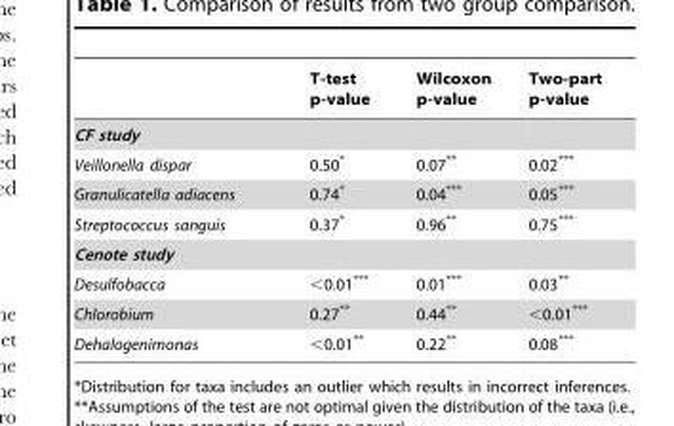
<table><thead><tr><td></td><td>T-test p-value</td><td>Wilcoxon p-value</td><td>Two-part p-value</td></tr></thead><tbody><tr><td colspan="4">CF study</td></tr><tr><td>Veillonella dispar</td><td>0.50*</td><td>0.07**</td><td>0.02***</td></tr><tr><td>Granulicatella adiacens</td><td>0.74*</td><td>0.04***</td><td>0.05***</td></tr><tr><td>Streptococcus sanguis</td><td>0.37*</td><td>0.96**</td><td>0.75***</td></tr><tr><td colspan="4">Cenote study</td></tr><tr><td>Desulfobacca</td><td>&lt;0.01***</td><td>0.01***</td><td>0.03**</td></tr><tr><td>Chlorobium</td><td>0.27**</td><td>0.44**</td><td>&lt;0.01***</td></tr><tr><td>Dehalogenimonas</td><td>&lt;0.01**</td><td>0.22**</td><td>0.08***</td></tr></tbody></table>